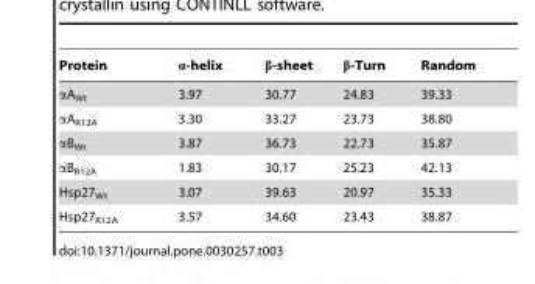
<table><thead><tr><td>Protein</td><td>α-helix</td><td>β-sheet</td><td>β-Turn</td><td>Random</td></tr></thead><tbody><tr><td>αA<sub>Wt</sub></td><td>3.97</td><td>30.77</td><td>24.83</td><td>39.33</td></tr><tr><td>αA<sub>R12A</sub></td><td>3.30</td><td>33.27</td><td>23.73</td><td>38.80</td></tr><tr><td>αB<sub>Wt</sub></td><td>3.87</td><td>36.73</td><td>22.73</td><td>35.87</td></tr><tr><td>αB<sub>R12A</sub></td><td>1.83</td><td>30.17</td><td>25.23</td><td>42.13</td></tr><tr><td>Hsp27<sub>Wt</sub></td><td>3.07</td><td>39.63</td><td>20.97</td><td>35.33</td></tr><tr><td>Hsp27<sub>R12A</sub></td><td>3.57</td><td>34.60</td><td>23.43</td><td>38.87</td></tr></tbody></table>